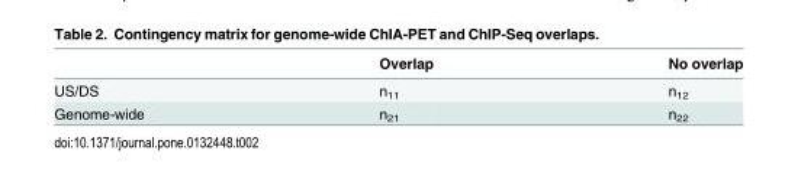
<table><thead><tr><td></td><td>Overlap</td><td>No overlap</td></tr></thead><tbody><tr><td>US/DS</td><td>n<sub>11</sub></td><td>n<sub>12</sub></td></tr><tr><td>Genome-wide</td><td>n<sub>21</sub></td><td>n<sub>22</sub></td></tr></tbody></table>